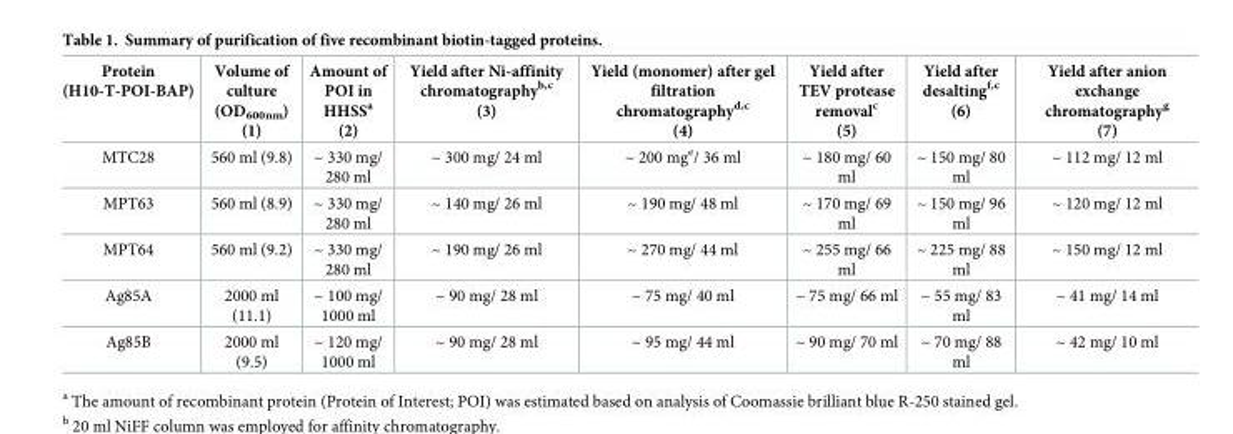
<table><thead><tr><td>Protein (H10-T-POI-BAP)</td><td>Volume of culture (OD<sub>600nm</sub>) (1)</td><td>Amount of POI in HHSS<sup>a</sup> (2)</td><td>Yield after Ni-affinity chromatography<sup>b,c</sup> (3)</td><td>Yield (monomer) after gel filtration chromatography<sup>d,c</sup> (4)</td><td>Yield after TEV protease removal<sup>c</sup> (5)</td><td>Yield after desalting<sup>f,c</sup> (6)</td><td>Yield after anion exchange chromatography<sup>g</sup> (7)</td></tr></thead><tbody><tr><td>MTC28</td><td>560 ml (9.8)</td><td>~ 330 mg/ 280 ml</td><td>~ 300 mg/ 24 ml</td><td>~ 200 mg<sup>e</sup>/ 36 ml</td><td>~ 180 mg/ 60 ml</td><td>~ 150 mg/ 80 ml</td><td>~ 112 mg/ 12 ml</td></tr><tr><td>MPT63</td><td>560 ml (8.9)</td><td>~ 330 mg/ 280 ml</td><td>~ 140 mg/ 26 ml</td><td>~ 190 mg/ 48 ml</td><td>~ 170 mg/ 69 ml</td><td>~ 150 mg/ 96 ml</td><td>~ 120 mg/ 12 ml</td></tr><tr><td>MPT64</td><td>560 ml (9.2)</td><td>~ 330 mg/ 280 ml</td><td>~ 190 mg/ 26 ml</td><td>~ 270 mg/ 44 ml</td><td>~ 255 mg/ 66 ml</td><td>~ 225 mg/ 88 ml</td><td>~ 150 mg/ 12 ml</td></tr><tr><td>Ag85A</td><td>2000 ml (11.1)</td><td>~ 100 mg/ 1000 ml</td><td>~ 90 mg/ 28 ml</td><td>~ 75 mg/ 40 ml</td><td>~ 75 mg/ 66 ml</td><td>~ 55 mg/ 83 ml</td><td>~ 41 mg/ 14 ml</td></tr><tr><td>Ag85B</td><td>2000 ml (9.5)</td><td>~ 120 mg/ 1000 ml</td><td>~ 90 mg/ 28 ml</td><td>~ 95 mg/ 44 ml</td><td>~ 90 mg/ 70 ml</td><td>~ 70 mg/ 88 ml</td><td>~ 42 mg/ 10 ml</td></tr></tbody></table>